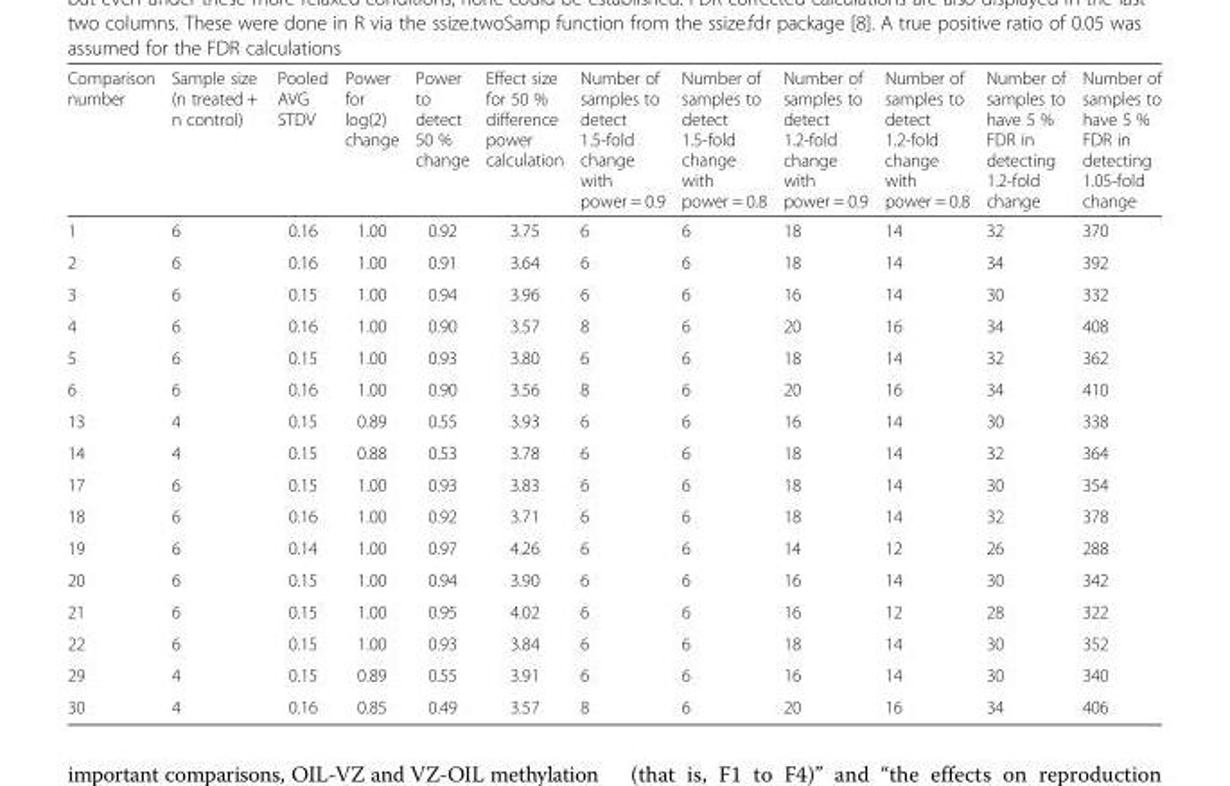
<table><thead><tr><td>Comparison number</td><td>Sample size (n treated + n control)</td><td>Pooled AVG STDV</td><td>Power for log(2) change</td><td>Power to detect 50 % change</td><td>Effect size for 50 % difference power calculation</td><td>Number of samples to detect 1.5-fold change with power = 0.9</td><td>Number of samples to detect 1.5-fold change with power = 0.8</td><td>Number of samples to detect 1.2-fold change with power = 0.9</td><td>Number of samples to detect 1.2-fold change with power = 0.8</td><td>Number of samples to have 5 % FDR in detecting 1.2-fold change</td><td>Number of samples to have 5 % FDR in detecting 1.05-fold change</td></tr></thead><tbody><tr><td>1</td><td>6</td><td>0.16</td><td>1.00</td><td>0.92</td><td>3.75</td><td>6</td><td>6</td><td>18</td><td>14</td><td>32</td><td>370</td></tr><tr><td>2</td><td>6</td><td>0.16</td><td>1.00</td><td>0.91</td><td>3.64</td><td>6</td><td>6</td><td>18</td><td>14</td><td>34</td><td>392</td></tr><tr><td>3</td><td>6</td><td>0.15</td><td>1.00</td><td>0.94</td><td>3.96</td><td>6</td><td>6</td><td>16</td><td>14</td><td>30</td><td>332</td></tr><tr><td>4</td><td>6</td><td>0.16</td><td>1.00</td><td>0.90</td><td>3.57</td><td>8</td><td>6</td><td>20</td><td>16</td><td>34</td><td>408</td></tr><tr><td>5</td><td>6</td><td>0.15</td><td>1.00</td><td>0.93</td><td>3.80</td><td>6</td><td>6</td><td>18</td><td>14</td><td>32</td><td>362</td></tr><tr><td>6</td><td>6</td><td>0.16</td><td>1.00</td><td>0.90</td><td>3.56</td><td>8</td><td>6</td><td>20</td><td>16</td><td>34</td><td>410</td></tr><tr><td>13</td><td>4</td><td>0.15</td><td>0.89</td><td>0.55</td><td>3.93</td><td>6</td><td>6</td><td>16</td><td>14</td><td>30</td><td>338</td></tr><tr><td>14</td><td>4</td><td>0.15</td><td>0.88</td><td>0.53</td><td>3.78</td><td>6</td><td>6</td><td>18</td><td>14</td><td>32</td><td>364</td></tr><tr><td>17</td><td>6</td><td>0.15</td><td>1.00</td><td>0.93</td><td>3.83</td><td>6</td><td>6</td><td>18</td><td>14</td><td>30</td><td>354</td></tr><tr><td>18</td><td>6</td><td>0.16</td><td>1.00</td><td>0.92</td><td>3.71</td><td>6</td><td>6</td><td>18</td><td>14</td><td>32</td><td>378</td></tr><tr><td>19</td><td>6</td><td>0.14</td><td>1.00</td><td>0.97</td><td>4.26</td><td>6</td><td>6</td><td>14</td><td>12</td><td>26</td><td>288</td></tr><tr><td>20</td><td>6</td><td>0.15</td><td>1.00</td><td>0.94</td><td>3.90</td><td>6</td><td>6</td><td>16</td><td>14</td><td>30</td><td>342</td></tr><tr><td>21</td><td>6</td><td>0.15</td><td>1.00</td><td>0.95</td><td>4.02</td><td>6</td><td>6</td><td>16</td><td>12</td><td>28</td><td>322</td></tr><tr><td>22</td><td>6</td><td>0.15</td><td>1.00</td><td>0.93</td><td>3.84</td><td>6</td><td>6</td><td>18</td><td>14</td><td>30</td><td>352</td></tr><tr><td>29</td><td>4</td><td>0.15</td><td>0.89</td><td>0.55</td><td>3.91</td><td>6</td><td>6</td><td>16</td><td>14</td><td>30</td><td>340</td></tr><tr><td>30</td><td>4</td><td>0.16</td><td>0.85</td><td>0.49</td><td>3.57</td><td>8</td><td>6</td><td>20</td><td>16</td><td>34</td><td>406</td></tr></tbody></table>